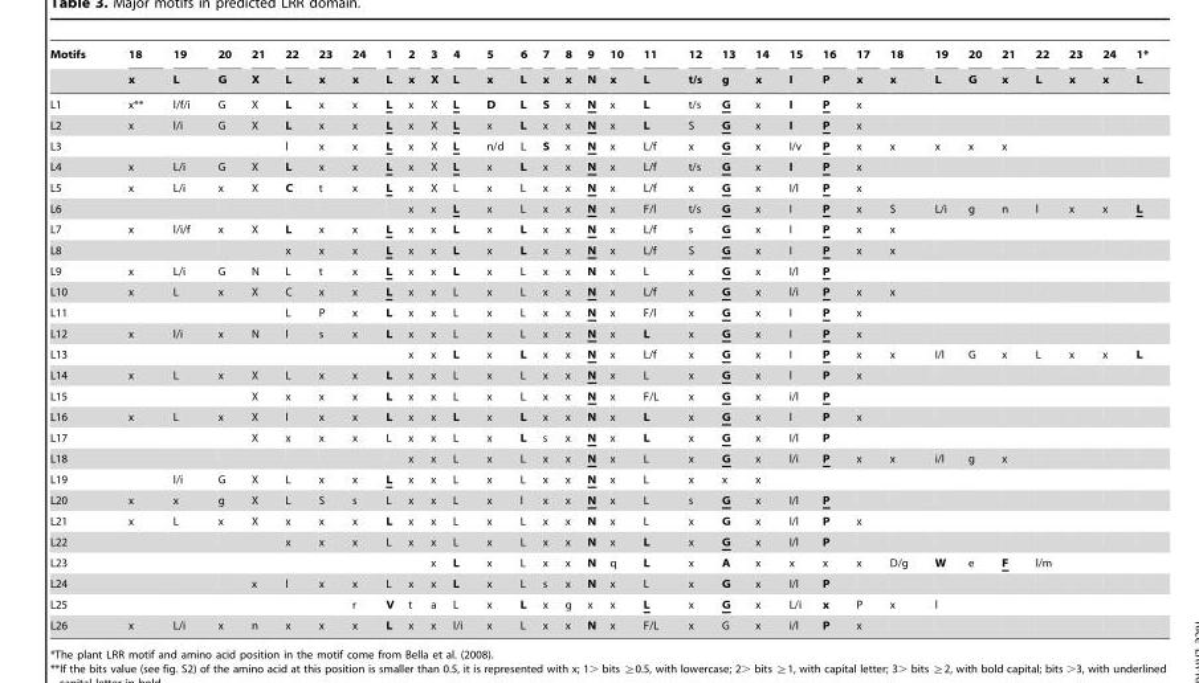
<table><thead><tr><td rowspan="2">Motifs</td><td rowspan="2">18 x</td><td rowspan="2">19 L</td><td rowspan="2">20 G</td><td rowspan="2">21 X</td><td rowspan="2">22 L</td><td rowspan="2">23 x</td><td rowspan="2">24 x</td><td rowspan="2">1 L</td><td rowspan="2">2 x</td><td rowspan="2">3 X</td><td rowspan="2">4 L</td><td rowspan="2">5 x</td><td rowspan="2">6 L</td><td rowspan="2">7 x</td><td rowspan="2">8 x</td><td rowspan="2">9 N</td><td rowspan="2">10 x</td><td rowspan="2">11 L</td><td rowspan="2">12 t/s</td><td rowspan="2">13 g</td><td rowspan="2">14 x</td><td rowspan="2">15 I</td><td rowspan="2">16 P</td><td rowspan="2">17 x</td><td rowspan="2">18 x</td><td rowspan="2">19 L</td><td rowspan="2">20 G</td><td rowspan="2">21 x</td><td rowspan="2">22 L</td><td rowspan="2">23 x</td><td rowspan="2">24 x</td><td rowspan="2">1* L</td></tr><tr></tr></thead><tbody><tr><td>L1</td><td>x**</td><td>l/f/i</td><td>G</td><td>X</td><td>L</td><td>x</td><td>x</td><td>L</td><td>x</td><td>X</td><td>L</td><td>D</td><td>L</td><td>S</td><td>x</td><td>N</td><td>x</td><td>L</td><td>t/s</td><td>G</td><td>x</td><td>I</td><td>P</td><td>x</td><td></td><td></td><td></td><td></td><td></td><td></td><td></td><td></td></tr><tr><td>L2</td><td>x</td><td>l/i</td><td>G</td><td>X</td><td>L</td><td>x</td><td>x</td><td>L</td><td>x</td><td>X</td><td>L</td><td>x</td><td>L</td><td>x</td><td>x</td><td>N</td><td>x</td><td>L</td><td>S</td><td>G</td><td>x</td><td>I</td><td>P</td><td>x</td><td></td><td></td><td></td><td></td><td></td><td></td><td></td><td></td></tr><tr><td>L3</td><td></td><td></td><td></td><td></td><td>l</td><td>x</td><td>x</td><td>L</td><td>x</td><td>X</td><td>L</td><td>n/d</td><td>L</td><td>S</td><td>x</td><td>N</td><td>x</td><td>L/f</td><td>x</td><td>G</td><td>x</td><td>I/v</td><td>P</td><td>x</td><td>x</td><td>x</td><td>x</td><td>x</td><td></td><td></td><td></td><td></td></tr><tr><td>L4</td><td>x</td><td>L/i</td><td>G</td><td>X</td><td>L</td><td>x</td><td>x</td><td>L</td><td>x</td><td>X</td><td>L</td><td>x</td><td>L</td><td>x</td><td>x</td><td>N</td><td>x</td><td>L/f</td><td>t/s</td><td>G</td><td>x</td><td>I</td><td>P</td><td>x</td><td></td><td></td><td></td><td></td><td></td><td></td><td></td><td></td></tr><tr><td>L5</td><td>x</td><td>L/i</td><td>x</td><td>X</td><td>C</td><td>t</td><td>x</td><td>L</td><td>x</td><td>X</td><td>L</td><td>x</td><td>L</td><td>x</td><td>x</td><td>N</td><td>x</td><td>L/f</td><td>x</td><td>G</td><td>x</td><td>I/l</td><td>P</td><td>x</td><td></td><td></td><td></td><td></td><td></td><td></td><td></td><td></td></tr><tr><td>L6</td><td></td><td></td><td></td><td></td><td></td><td></td><td></td><td></td><td>x</td><td>x</td><td>L</td><td>x</td><td>L</td><td>x</td><td>x</td><td>N</td><td>x</td><td>F/l</td><td>t/s</td><td>G</td><td>x</td><td>I</td><td>P</td><td>x</td><td>S</td><td>L/i</td><td>g</td><td>n</td><td>l</td><td>x</td><td>x</td><td>L</td></tr><tr><td>L7</td><td>x</td><td>l/i/f</td><td>x</td><td>X</td><td>L</td><td>x</td><td>x</td><td>L</td><td>x</td><td>x</td><td>L</td><td>x</td><td>L</td><td>x</td><td>x</td><td>N</td><td>x</td><td>L/f</td><td>s</td><td>G</td><td>x</td><td>I</td><td>P</td><td>x</td><td>x</td><td></td><td></td><td></td><td></td><td></td><td></td><td></td></tr><tr><td>L8</td><td></td><td></td><td></td><td></td><td>x</td><td>x</td><td>x</td><td>L</td><td>x</td><td>x</td><td>L</td><td>x</td><td>L</td><td>x</td><td>x</td><td>N</td><td>x</td><td>L/f</td><td>S</td><td>G</td><td>x</td><td>I</td><td>P</td><td>x</td><td>x</td><td></td><td></td><td></td><td></td><td></td><td></td><td></td></tr><tr><td>L9</td><td>x</td><td>L/i</td><td>G</td><td>N</td><td>L</td><td>t</td><td>x</td><td>L</td><td>x</td><td>x</td><td>L</td><td>x</td><td>L</td><td>x</td><td>x</td><td>N</td><td>x</td><td>L</td><td>x</td><td>G</td><td>x</td><td>I/l</td><td>P</td><td></td><td></td><td></td><td></td><td></td><td></td><td></td><td></td><td></td></tr><tr><td>L10</td><td>x</td><td>L</td><td>x</td><td>X</td><td>C</td><td>x</td><td>x</td><td>L</td><td>x</td><td>x</td><td>L</td><td>x</td><td>L</td><td>x</td><td>x</td><td>N</td><td>x</td><td>L/f</td><td>x</td><td>G</td><td>x</td><td>l/i</td><td>P</td><td>x</td><td>x</td><td></td><td></td><td></td><td></td><td></td><td></td><td></td></tr><tr><td>L11</td><td></td><td></td><td></td><td></td><td>L</td><td>P</td><td>x</td><td>L</td><td>x</td><td>x</td><td>L</td><td>x</td><td>L</td><td>x</td><td>x</td><td>N</td><td>x</td><td>F/l</td><td>x</td><td>G</td><td>x</td><td>I</td><td>P</td><td>x</td><td></td><td></td><td></td><td></td><td></td><td></td><td></td><td></td></tr><tr><td>L12</td><td>x</td><td>l/i</td><td>x</td><td>N</td><td>l</td><td>s</td><td>x</td><td>L</td><td>x</td><td>x</td><td>L</td><td>x</td><td>L</td><td>x</td><td>x</td><td>N</td><td>x</td><td>L</td><td>x</td><td>G</td><td>x</td><td>I</td><td>P</td><td>x</td><td></td><td></td><td></td><td></td><td></td><td></td><td></td><td></td></tr><tr><td>L13</td><td></td><td></td><td></td><td></td><td></td><td></td><td></td><td></td><td>x</td><td>x</td><td>L</td><td>x</td><td>L</td><td>x</td><td>x</td><td>N</td><td>x</td><td>L/f</td><td>x</td><td>G</td><td>x</td><td>I</td><td>P</td><td>x</td><td>x</td><td>I/l</td><td>G</td><td>x</td><td>L</td><td>x</td><td>x</td><td>L</td></tr><tr><td>L14</td><td>x</td><td>L</td><td>x</td><td>X</td><td>L</td><td>x</td><td>x</td><td>L</td><td>x</td><td>x</td><td>L</td><td>x</td><td>L</td><td>x</td><td>x</td><td>N</td><td>x</td><td>L</td><td>x</td><td>G</td><td>x</td><td>l</td><td>P</td><td>x</td><td></td><td></td><td></td><td></td><td></td><td></td><td></td><td></td></tr><tr><td>L15</td><td></td><td></td><td></td><td>X</td><td>x</td><td>x</td><td>x</td><td>L</td><td>x</td><td>x</td><td>L</td><td>x</td><td>L</td><td>x</td><td>x</td><td>N</td><td>x</td><td>F/L</td><td>x</td><td>G</td><td>x</td><td>i/l</td><td>P</td><td></td><td></td><td></td><td></td><td></td><td></td><td></td><td></td><td></td></tr><tr><td>L16</td><td>x</td><td>L</td><td>x</td><td>X</td><td>l</td><td>x</td><td>x</td><td>L</td><td>x</td><td>x</td><td>L</td><td>x</td><td>L</td><td>x</td><td>x</td><td>N</td><td>x</td><td>L</td><td>x</td><td>G</td><td>x</td><td>l</td><td>P</td><td>x</td><td></td><td></td><td></td><td></td><td></td><td></td><td></td><td></td></tr><tr><td>L17</td><td></td><td></td><td></td><td>X</td><td>x</td><td>x</td><td>x</td><td>L</td><td>x</td><td>x</td><td>L</td><td>x</td><td>L</td><td>s</td><td>x</td><td>N</td><td>x</td><td>L</td><td>x</td><td>G</td><td>x</td><td>I/l</td><td>P</td><td></td><td></td><td></td><td></td><td></td><td></td><td></td><td></td><td></td></tr><tr><td>L18</td><td></td><td></td><td></td><td></td><td></td><td></td><td></td><td></td><td>x</td><td>x</td><td>L</td><td>x</td><td>L</td><td>x</td><td>x</td><td>N</td><td>x</td><td>L</td><td>x</td><td>G</td><td>x</td><td>l/i</td><td>P</td><td>x</td><td>x</td><td>i/l</td><td>g</td><td>x</td><td></td><td></td><td></td><td></td></tr><tr><td>L19</td><td></td><td>l/i</td><td>G</td><td>X</td><td>L</td><td>x</td><td>x</td><td>L</td><td>x</td><td>x</td><td>L</td><td>x</td><td>L</td><td>x</td><td>x</td><td>N</td><td>x</td><td>L</td><td>x</td><td>x</td><td>x</td><td></td><td></td><td></td><td></td><td></td><td></td><td></td><td></td><td></td><td></td><td></td></tr><tr><td>L20</td><td>x</td><td>x</td><td>g</td><td>X</td><td>L</td><td>S</td><td>s</td><td>L</td><td>x</td><td>x</td><td>L</td><td>x</td><td>l</td><td>x</td><td>x</td><td>N</td><td>x</td><td>L</td><td>s</td><td>G</td><td>x</td><td>I/l</td><td>P</td><td></td><td></td><td></td><td></td><td></td><td></td><td></td><td></td><td></td></tr><tr><td>L21</td><td>x</td><td>L</td><td>x</td><td>X</td><td>x</td><td>x</td><td>x</td><td>L</td><td>x</td><td>x</td><td>L</td><td>x</td><td>L</td><td>x</td><td>x</td><td>N</td><td>x</td><td>L</td><td>x</td><td>G</td><td>x</td><td>I/l</td><td>P</td><td>x</td><td></td><td></td><td></td><td></td><td></td><td></td><td></td><td></td></tr><tr><td>L22</td><td></td><td></td><td></td><td></td><td>x</td><td>x</td><td>x</td><td>L</td><td>x</td><td>x</td><td>L</td><td>x</td><td>L</td><td>x</td><td>x</td><td>N</td><td>x</td><td>L</td><td>x</td><td>G</td><td>x</td><td>I/l</td><td>P</td><td></td><td></td><td></td><td></td><td></td><td></td><td></td><td></td><td></td></tr><tr><td>L23</td><td></td><td></td><td></td><td></td><td></td><td></td><td></td><td></td><td></td><td>x</td><td>L</td><td>x</td><td>L</td><td>x</td><td>x</td><td>N</td><td>q</td><td>L</td><td>x</td><td>A</td><td>x</td><td>x</td><td>x</td><td>x</td><td>D/g</td><td>W</td><td>e</td><td>F</td><td>l/m</td><td></td><td></td><td></td></tr><tr><td>L24</td><td></td><td></td><td></td><td>x</td><td>l</td><td>x</td><td>x</td><td>L</td><td>x</td><td>x</td><td>L</td><td>x</td><td>L</td><td>s</td><td>x</td><td>N</td><td>x</td><td>L</td><td>x</td><td>G</td><td>x</td><td>I/l</td><td>P</td><td></td><td></td><td></td><td></td><td></td><td></td><td></td><td></td><td></td></tr><tr><td>L25</td><td></td><td></td><td></td><td></td><td></td><td></td><td>r</td><td>V</td><td>t</td><td>a</td><td>L</td><td>x</td><td>L</td><td>x</td><td>g</td><td>x</td><td>x</td><td>L</td><td>x</td><td>G</td><td>x</td><td>L/i</td><td>x</td><td>P</td><td>x</td><td>l</td><td></td><td></td><td></td><td></td><td></td><td></td></tr><tr><td>L26</td><td>x</td><td>L/i</td><td>x</td><td>n</td><td>x</td><td>x</td><td>x</td><td>L</td><td>x</td><td>x</td><td>l/i</td><td>x</td><td>L</td><td>x</td><td>x</td><td>N</td><td>x</td><td>F/L</td><td>x</td><td>G</td><td>x</td><td>i/l</td><td>P</td><td>x</td><td></td><td></td><td></td><td></td><td></td><td></td><td></td><td></td></tr></tbody></table>